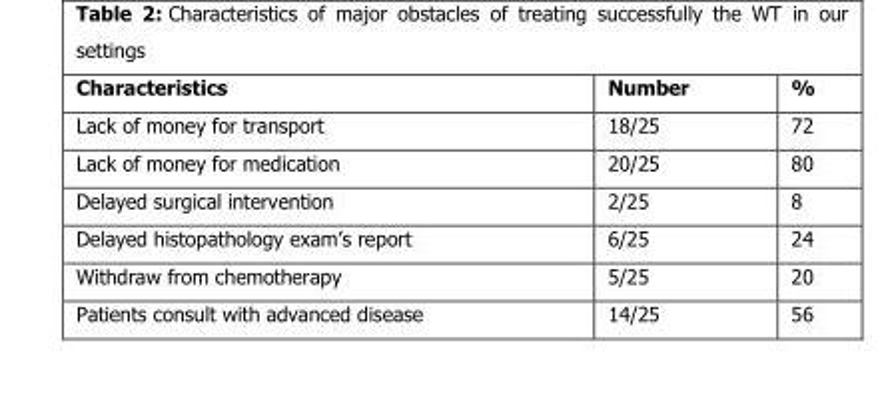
<table><thead><tr><td>Characteristics</td><td>Number</td><td>%</td></tr></thead><tbody><tr><td>Lack of money for transport</td><td>18/25</td><td>72</td></tr><tr><td>Lack of money for medication</td><td>20/25</td><td>80</td></tr><tr><td>Delayed surgical intervention</td><td>2/25</td><td>8</td></tr><tr><td>Delayed histopathology exam’s report</td><td>6/25</td><td>24</td></tr><tr><td>Withdraw from chemotherapy</td><td>5/25</td><td>20</td></tr><tr><td>Patients consult with advanced disease</td><td>14/25</td><td>56</td></tr></tbody></table>